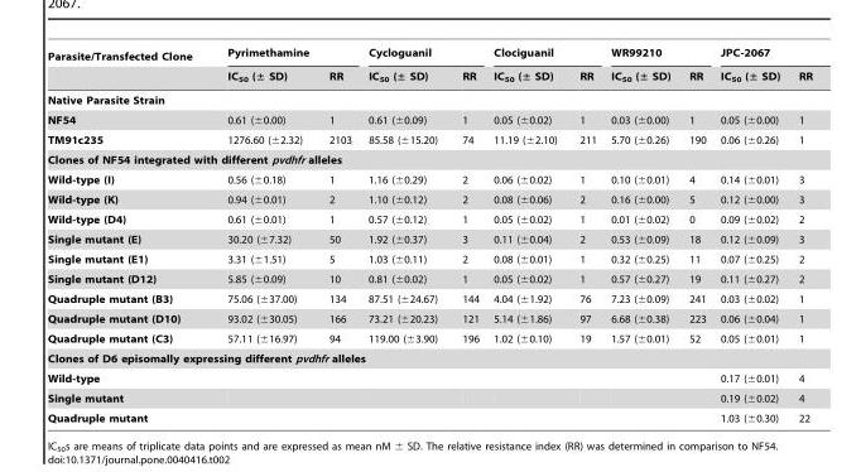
<table><thead><tr><td rowspan="2">Parasite/Transfected Clone</td><td colspan="2">Pyrimethamine</td><td colspan="2">Cycloguanil</td><td colspan="2">Clociguanil</td><td colspan="2">WR99210</td><td colspan="2">JPC-2067</td></tr><tr><td>IC<sub>50</sub> (± SD)</td><td>RR</td><td>IC<sub>50</sub> (± SD)</td><td>RR</td><td>IC<sub>50</sub> (± SD)</td><td>RR</td><td>IC<sub>50</sub> (± SD)</td><td>RR</td><td>IC<sub>50</sub> (± SD)</td><td>RR</td></tr></thead><tbody><tr><td colspan="11">Native Parasite Strain</td></tr><tr><td>NF54</td><td>0.61 (±0.00)</td><td>1</td><td>0.61 (±0.09)</td><td>1</td><td>0.05 (±0.02)</td><td>1</td><td>0.03 (±0.00)</td><td>1</td><td>0.05 (±0.00)</td><td>1</td></tr><tr><td>TM91c235</td><td>1276.60 (±2.32)</td><td>2103</td><td>85.58 (±15.20)</td><td>74</td><td>11.19 (±2.10)</td><td>211</td><td>5.70 (±0.26)</td><td>190</td><td>0.06 (±0.26)</td><td>1</td></tr><tr><td colspan="11">Clones of NF54 integrated with different pvdhfr alleles</td></tr><tr><td>Wild-type (I)</td><td>0.56 (±0.18)</td><td>1</td><td>1.16 (±0.29)</td><td>2</td><td>0.06 (±0.02)</td><td>1</td><td>0.10 (±0.01)</td><td>4</td><td>0.14 (±0.01)</td><td>3</td></tr><tr><td>Wild-type (K)</td><td>0.94 (±0.01)</td><td>2</td><td>1.10 (±0.12)</td><td>2</td><td>0.08 (±0.06)</td><td>2</td><td>0.16 (±0.00)</td><td>5</td><td>0.12 (±0.00)</td><td>3</td></tr><tr><td>Wild-type (D4)</td><td>0.61 (±0.01)</td><td>1</td><td>0.57 (±0.12)</td><td>1</td><td>0.05 (±0.02)</td><td>1</td><td>0.01 (±0.02)</td><td>0</td><td>0.09 (±0.02)</td><td>2</td></tr><tr><td>Single mutant (E)</td><td>30.20 (±7.32)</td><td>50</td><td>1.92 (±0.37)</td><td>3</td><td>0.11 (±0.04)</td><td>2</td><td>0.53 (±0.09)</td><td>18</td><td>0.12 (±0.09)</td><td>3</td></tr><tr><td>Single mutant (E1)</td><td>3.31 (±1.51)</td><td>5</td><td>1.03 (±0.11)</td><td>2</td><td>0.08 (±0.01)</td><td>1</td><td>0.32 (±0.25)</td><td>11</td><td>0.07 (±0.25)</td><td>2</td></tr><tr><td>Single mutant (D12)</td><td>5.85 (±0.09)</td><td>10</td><td>0.81 (±0.02)</td><td>1</td><td>0.05 (±0.02)</td><td>1</td><td>0.57 (±0.27)</td><td>19</td><td>0.11 (±0.27)</td><td>2</td></tr><tr><td>Quadruple mutant (B3)</td><td>75.06 (±37.00)</td><td>134</td><td>87.51 (±24.67)</td><td>144</td><td>4.04 (±1.92)</td><td>76</td><td>7.23 (±0.09)</td><td>241</td><td>0.03 (±0.02)</td><td>1</td></tr><tr><td>Quadruple mutant (D10)</td><td>93.02 (±30.05)</td><td>166</td><td>73.21 (±20.23)</td><td>121</td><td>5.14 (±1.86)</td><td>97</td><td>6.68 (±0.38)</td><td>223</td><td>0.06 (±0.04)</td><td>1</td></tr><tr><td>Quadruple mutant (C3)</td><td>57.11 (±16.97)</td><td>94</td><td>119.00 (±3.90)</td><td>196</td><td>1.02 (±0.10)</td><td>19</td><td>1.57 (±0.01)</td><td>52</td><td>0.05 (±0.01)</td><td>1</td></tr><tr><td colspan="11">Clones of D6 episomally expressing different pvdhfr alleles</td></tr><tr><td>Wild-type</td><td></td><td></td><td></td><td></td><td></td><td></td><td></td><td></td><td>0.17 (±0.01)</td><td>4</td></tr><tr><td>Single mutant</td><td></td><td></td><td></td><td></td><td></td><td></td><td></td><td></td><td>0.19 (±0.02)</td><td>4</td></tr><tr><td>Quadruple mutant</td><td></td><td></td><td></td><td></td><td></td><td></td><td></td><td></td><td>1.03 (±0.30)</td><td>22</td></tr></tbody></table>